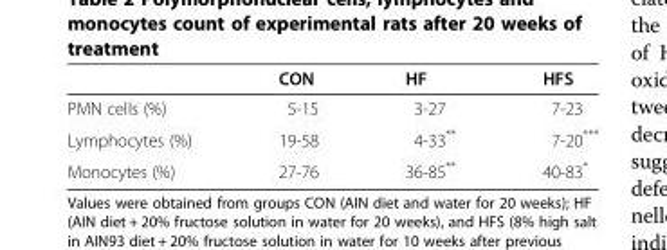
<table><thead><tr><td></td><td>CON</td><td>HF</td><td>HFS</td></tr></thead><tbody><tr><td>PMN cells (%)</td><td>5-15</td><td>3-27</td><td>7-23</td></tr><tr><td>Lymphocytes (%)</td><td>19-58</td><td>4-33**</td><td>7-20***</td></tr><tr><td>Monocytes (%)</td><td>27-76</td><td>36-85**</td><td>40-83*</td></tr></tbody></table>